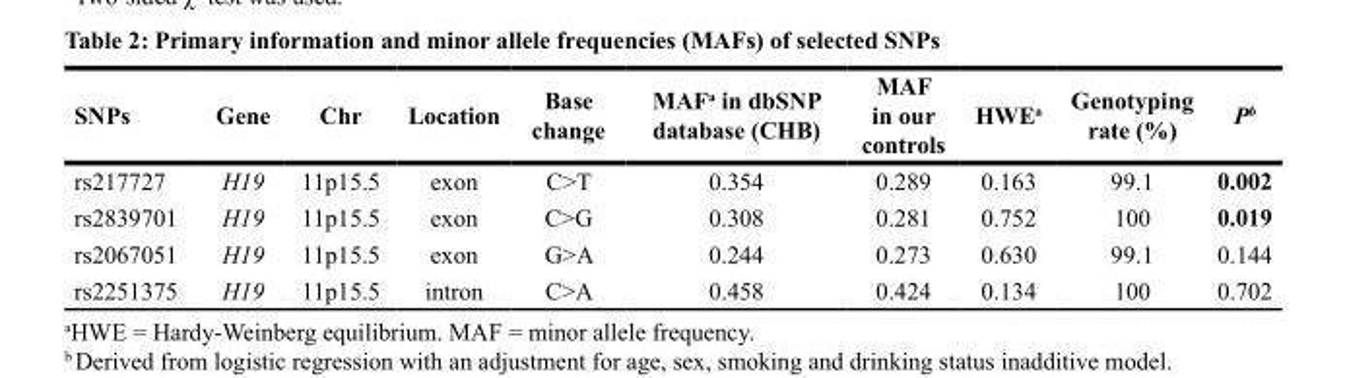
<table><thead><tr><td>SNPs</td><td>Gene</td><td>Chr</td><td>Location</td><td>Base change</td><td>MAF<sup>a</sup> in dbSNP database (CHB)</td><td>MAF in our controls</td><td>HWE<sup>a</sup></td><td>Genotyping rate (%)</td><td>P<sup>b</sup></td></tr></thead><tbody><tr><td>rs217727</td><td>H19</td><td>11p15.5</td><td>exon</td><td>C&gt;T</td><td>0.354</td><td>0.289</td><td>0.163</td><td>99.1</td><td>0.002</td></tr><tr><td>rs2839701</td><td>H19</td><td>11p15.5</td><td>exon</td><td>C&gt;G</td><td>0.308</td><td>0.281</td><td>0.752</td><td>100</td><td>0.019</td></tr><tr><td>rs2067051</td><td>H19</td><td>11p15.5</td><td>exon</td><td>G&gt;A</td><td>0.244</td><td>0.273</td><td>0.630</td><td>99.1</td><td>0.144</td></tr><tr><td>rs2251375</td><td>H19</td><td>11p15.5</td><td>intron</td><td>C&gt;A</td><td>0.458</td><td>0.424</td><td>0.134</td><td>100</td><td>0.702</td></tr></tbody></table>